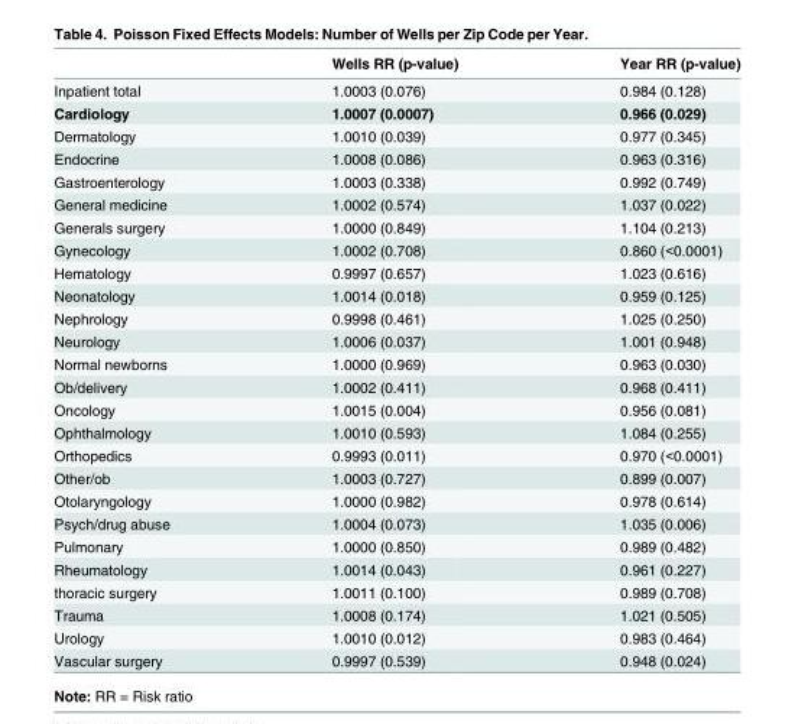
<table><thead><tr><td></td><td>Wells RR (p-value)</td><td>Year RR (p-value)</td></tr></thead><tbody><tr><td>Inpatient total</td><td>1.0003 (0.076)</td><td>0.984 (0.128)</td></tr><tr><td>Cardiology</td><td>1.0007 (0.0007)</td><td>0.966 (0.029)</td></tr><tr><td>Dermatology</td><td>1.0010 (0.039)</td><td>0.977 (0.345)</td></tr><tr><td>Endocrine</td><td>1.0008 (0.086)</td><td>0.963 (0.316)</td></tr><tr><td>Gastroenterology</td><td>1.0003 (0.338)</td><td>0.992 (0.749)</td></tr><tr><td>General medicine</td><td>1.0002 (0.574)</td><td>1.037 (0.022)</td></tr><tr><td>Generals surgery</td><td>1.0000 (0.849)</td><td>1.104 (0.213)</td></tr><tr><td>Gynecology</td><td>1.0002 (0.708)</td><td>0.860 (&lt;0.0001)</td></tr><tr><td>Hematology</td><td>0.9997 (0.657)</td><td>1.023 (0.616)</td></tr><tr><td>Neonatology</td><td>1.0014 (0.018)</td><td>0.959 (0.125)</td></tr><tr><td>Nephrology</td><td>0.9998 (0.461)</td><td>1.025 (0.250)</td></tr><tr><td>Neurology</td><td>1.0006 (0.037)</td><td>1.001 (0.948)</td></tr><tr><td>Normal newborns</td><td>1.0000 (0.969)</td><td>0.963 (0.030)</td></tr><tr><td>Ob/delivery</td><td>1.0002 (0.411)</td><td>0.968 (0.411)</td></tr><tr><td>Oncology</td><td>1.0015 (0.004)</td><td>0.956 (0.081)</td></tr><tr><td>Ophthalmology</td><td>1.0010 (0.593)</td><td>1.084 (0.255)</td></tr><tr><td>Orthopedics</td><td>0.9993 (0.011)</td><td>0.970 (&lt;0.0001)</td></tr><tr><td>Other/ob</td><td>1.0003 (0.727)</td><td>0.899 (0.007)</td></tr><tr><td>Otolaryngology</td><td>1.0000 (0.982)</td><td>0.978 (0.614)</td></tr><tr><td>Psych/drug abuse</td><td>1.0004 (0.073)</td><td>1.035 (0.006)</td></tr><tr><td>Pulmonary</td><td>1.0000 (0.850)</td><td>0.989 (0.482)</td></tr><tr><td>Rheumatology</td><td>1.0014 (0.043)</td><td>0.961 (0.227)</td></tr><tr><td>thoracic surgery</td><td>1.0011 (0.100)</td><td>0.989 (0.708)</td></tr><tr><td>Trauma</td><td>1.0008 (0.174)</td><td>1.021 (0.505)</td></tr><tr><td>Urology</td><td>1.0010 (0.012)</td><td>0.983 (0.464)</td></tr><tr><td>Vascular surgery</td><td>0.9997 (0.539)</td><td>0.948 (0.024)</td></tr></tbody></table>